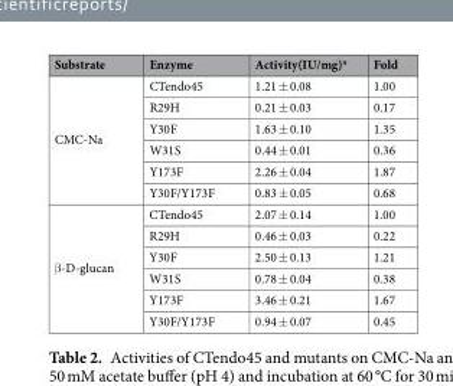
<table><thead><tr><td>Substrate</td><td>Enzyme</td><td>Activity(IU/mg)<sup>a</sup></td><td>Fold</td></tr></thead><tbody><tr><td rowspan="6">CMC-Na</td><td>CTendo45</td><td>1.21 ± 0.08</td><td>1.00</td></tr><tr><td>R29H</td><td>0.21 ± 0.03</td><td>0.17</td></tr><tr><td>Y30F</td><td>1.63 ± 0.10</td><td>1.35</td></tr><tr><td>W31S</td><td>0.44 ± 0.01</td><td>0.36</td></tr><tr><td>Y173F</td><td>2.26 ± 0.04</td><td>1.87</td></tr><tr><td>Y30F/Y173F</td><td>0.83 ± 0.05</td><td>0.68</td></tr><tr><td rowspan="6">β-D-glucan</td><td>CTendo45</td><td>2.07 ± 0.14</td><td>1.00</td></tr><tr><td>R29H</td><td>0.46 ± 0.03</td><td>0.22</td></tr><tr><td>Y30F</td><td>2.50 ± 0.13</td><td>1.21</td></tr><tr><td>W31S</td><td>0.78 ± 0.04</td><td>0.38</td></tr><tr><td>Y173F</td><td>3.46 ± 0.21</td><td>1.67</td></tr><tr><td>Y30F/Y173F</td><td>0.94 ± 0.07</td><td>0.45</td></tr></tbody></table>